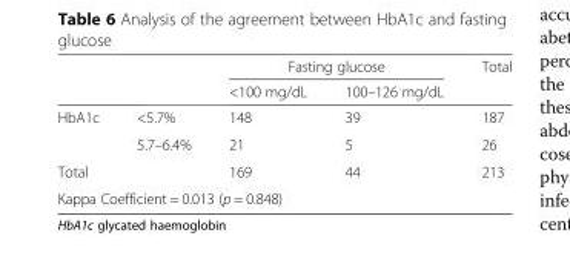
<table><thead><tr><td rowspan="2"></td><td rowspan="2"></td><td colspan="2">Fasting glucose</td><td rowspan="2">Total</td></tr><tr><td>&lt;100 mg/dL</td><td>100–126 mg/dL</td></tr></thead><tbody><tr><td rowspan="2">HbA1c</td><td>&lt;5.7%</td><td>148</td><td>39</td><td>187</td></tr><tr><td>5.7–6.4%</td><td>21</td><td>5</td><td>26</td></tr><tr><td>Total</td><td></td><td>169</td><td>44</td><td>213</td></tr><tr><td colspan="5">Kappa Coefficient = 0.013 (p = 0.848)</td></tr></tbody></table>